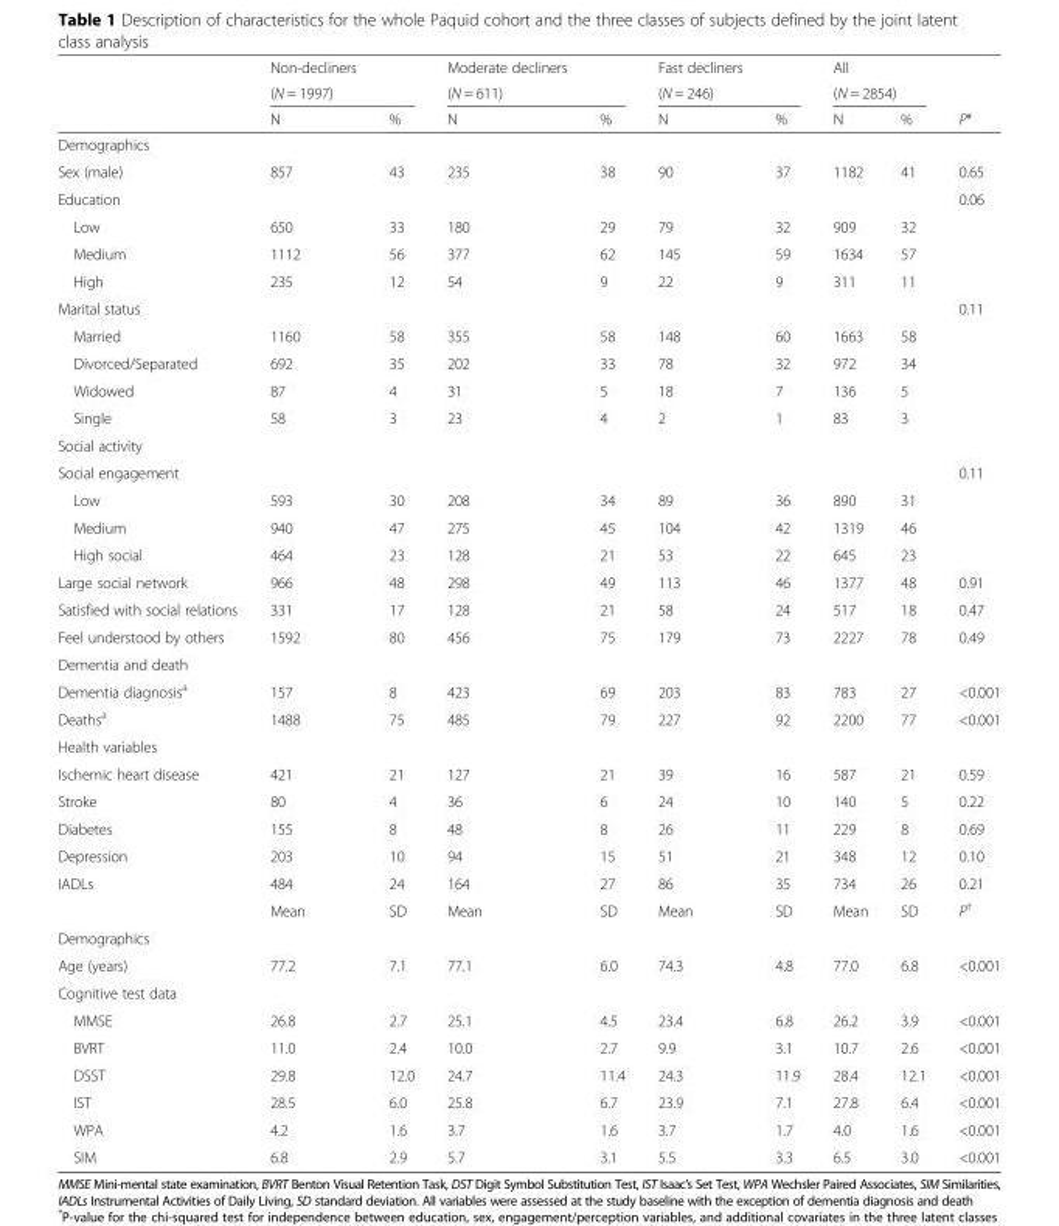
<table><thead><tr><td rowspan="3"></td><td>Non-decliners</td><td></td><td>Moderate decliners</td><td></td><td>Fast decliners</td><td></td><td>All</td><td></td><td rowspan="3">P*</td></tr><tr><td colspan="2">(N = 1997)</td><td colspan="2">(N = 611)</td><td colspan="2">(N = 246)</td><td colspan="2">(N = 2854)</td></tr><tr><td>N</td><td>%</td><td>N</td><td>%</td><td>N</td><td>%</td><td>N</td><td>%</td></tr></thead><tbody><tr><td colspan="10">Demographics</td></tr><tr><td>Sex (male)</td><td>857</td><td>43</td><td>235</td><td>38</td><td>90</td><td>37</td><td>1182</td><td>41</td><td>0.65</td></tr><tr><td>Education</td><td></td><td></td><td></td><td></td><td></td><td></td><td></td><td></td><td>0.06</td></tr><tr><td>Low</td><td>650</td><td>33</td><td>180</td><td>29</td><td>79</td><td>32</td><td>909</td><td>32</td><td></td></tr><tr><td>Medium</td><td>1112</td><td>56</td><td>377</td><td>62</td><td>145</td><td>59</td><td>1634</td><td>57</td><td></td></tr><tr><td>High</td><td>235</td><td>12</td><td>54</td><td>9</td><td>22</td><td>9</td><td>311</td><td>11</td><td></td></tr><tr><td>Marital status</td><td></td><td></td><td></td><td></td><td></td><td></td><td></td><td></td><td>0.11</td></tr><tr><td>Married</td><td>1160</td><td>58</td><td>355</td><td>58</td><td>148</td><td>60</td><td>1663</td><td>58</td><td></td></tr><tr><td>Divorced/Separated</td><td>692</td><td>35</td><td>202</td><td>33</td><td>78</td><td>32</td><td>972</td><td>34</td><td></td></tr><tr><td>Widowed</td><td>87</td><td>4</td><td>31</td><td>5</td><td>18</td><td>7</td><td>136</td><td>5</td><td></td></tr><tr><td>Single</td><td>58</td><td>3</td><td>23</td><td>4</td><td>2</td><td>1</td><td>83</td><td>3</td><td></td></tr><tr><td colspan="10">Social activity</td></tr><tr><td>Social engagement</td><td></td><td></td><td></td><td></td><td></td><td></td><td></td><td></td><td>0.11</td></tr><tr><td>Low</td><td>593</td><td>30</td><td>208</td><td>34</td><td>89</td><td>36</td><td>890</td><td>31</td><td></td></tr><tr><td>Medium</td><td>940</td><td>47</td><td>275</td><td>45</td><td>104</td><td>42</td><td>1319</td><td>46</td><td></td></tr><tr><td>High social</td><td>464</td><td>23</td><td>128</td><td>21</td><td>53</td><td>22</td><td>645</td><td>23</td><td></td></tr><tr><td>Large social network</td><td>966</td><td>48</td><td>298</td><td>49</td><td>113</td><td>46</td><td>1377</td><td>48</td><td>0.91</td></tr><tr><td>Satisfied with social relations</td><td>331</td><td>17</td><td>128</td><td>21</td><td>58</td><td>24</td><td>517</td><td>18</td><td>0.47</td></tr><tr><td>Feel understood by others</td><td>1592</td><td>80</td><td>456</td><td>75</td><td>179</td><td>73</td><td>2227</td><td>78</td><td>0.49</td></tr><tr><td colspan="10">Dementia and death</td></tr><tr><td>Dementia diagnosis<sup>a</sup></td><td>157</td><td>8</td><td>423</td><td>69</td><td>203</td><td>83</td><td>783</td><td>27</td><td>&lt;0.001</td></tr><tr><td>Deaths<sup>a</sup></td><td>1488</td><td>75</td><td>485</td><td>79</td><td>227</td><td>92</td><td>2200</td><td>77</td><td>&lt;0.001</td></tr><tr><td colspan="10">Health variables</td></tr><tr><td>Ischemic heart disease</td><td>421</td><td>21</td><td>127</td><td>21</td><td>39</td><td>16</td><td>587</td><td>21</td><td>0.59</td></tr><tr><td>Stroke</td><td>80</td><td>4</td><td>36</td><td>6</td><td>24</td><td>10</td><td>140</td><td>5</td><td>0.22</td></tr><tr><td>Diabetes</td><td>155</td><td>8</td><td>48</td><td>8</td><td>26</td><td>11</td><td>229</td><td>8</td><td>0.69</td></tr><tr><td>Depression</td><td>203</td><td>10</td><td>94</td><td>15</td><td>51</td><td>21</td><td>348</td><td>12</td><td>0.10</td></tr><tr><td rowspan="2">IADLs</td><td>484</td><td>24</td><td>164</td><td>27</td><td>86</td><td>35</td><td>734</td><td>26</td><td>0.21</td></tr><tr><td>Mean</td><td>SD</td><td>Mean</td><td>SD</td><td>Mean</td><td>SD</td><td>Mean</td><td>SD</td><td>P<sup>†</sup></td></tr><tr><td colspan="10">Demographics</td></tr><tr><td>Age (years)</td><td>77.2</td><td>7.1</td><td>77.1</td><td>6.0</td><td>74.3</td><td>4.8</td><td>77.0</td><td>6.8</td><td>&lt;0.001</td></tr><tr><td colspan="10">Cognitive test data</td></tr><tr><td>MMSE</td><td>26.8</td><td>2.7</td><td>25.1</td><td>4.5</td><td>23.4</td><td>6.8</td><td>26.2</td><td>3.9</td><td>&lt;0.001</td></tr><tr><td>BVRT</td><td>11.0</td><td>2.4</td><td>10.0</td><td>2.7</td><td>9.9</td><td>3.1</td><td>10.7</td><td>2.6</td><td>&lt;0.001</td></tr><tr><td>DSST</td><td>29.8</td><td>12.0</td><td>24.7</td><td>11.4</td><td>24.3</td><td>11.9</td><td>28.4</td><td>12.1</td><td>&lt;0.001</td></tr><tr><td>IST</td><td>28.5</td><td>6.0</td><td>25.8</td><td>6.7</td><td>23.9</td><td>7.1</td><td>27.8</td><td>6.4</td><td>&lt;0.001</td></tr><tr><td>WPA</td><td>4.2</td><td>1.6</td><td>3.7</td><td>1.6</td><td>3.7</td><td>1.7</td><td>4.0</td><td>1.6</td><td>&lt;0.001</td></tr><tr><td>SIM</td><td>6.8</td><td>2.9</td><td>5.7</td><td>3.1</td><td>5.5</td><td>3.3</td><td>6.5</td><td>3.0</td><td>&lt;0.001</td></tr></tbody></table>